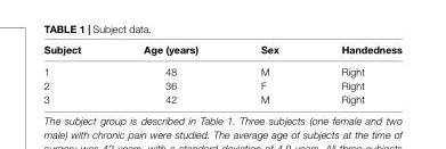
<table><thead><tr><td>Subject</td><td>Age (years)</td><td>Sex</td><td>Handedness</td></tr></thead><tbody><tr><td>1</td><td>48</td><td>M</td><td>Right</td></tr><tr><td>2</td><td>36</td><td>F</td><td>Right</td></tr><tr><td>3</td><td>42</td><td>M</td><td>Right</td></tr></tbody></table>